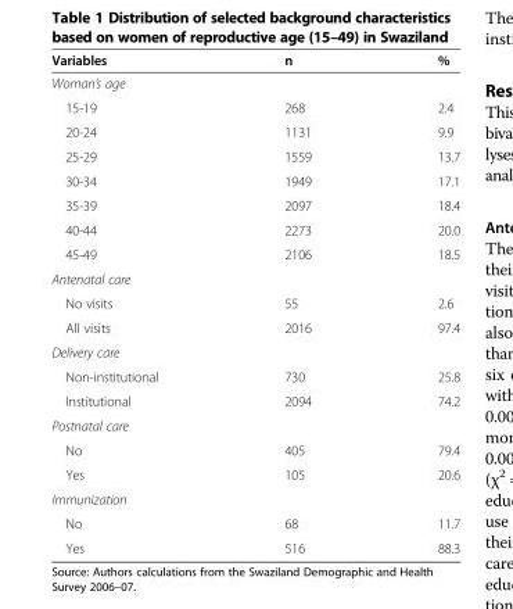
<table><thead><tr><td>Variables</td><td>n</td><td>%</td></tr></thead><tbody><tr><td colspan="3">Woman’s age</td></tr><tr><td>15-19</td><td>268</td><td>2.4</td></tr><tr><td>20-24</td><td>1131</td><td>9.9</td></tr><tr><td>25-29</td><td>1559</td><td>13.7</td></tr><tr><td>30-34</td><td>1949</td><td>17.1</td></tr><tr><td>35-39</td><td>2097</td><td>18.4</td></tr><tr><td>40-44</td><td>2273</td><td>20.0</td></tr><tr><td>45-49</td><td>2106</td><td>18.5</td></tr><tr><td colspan="3">Antenatal care</td></tr><tr><td>No visits</td><td>55</td><td>2.6</td></tr><tr><td>All visits</td><td>2016</td><td>97.4</td></tr><tr><td colspan="3">Delivery care</td></tr><tr><td>Non-institutional</td><td>730</td><td>25.8</td></tr><tr><td>Institutional</td><td>2094</td><td>74.2</td></tr><tr><td colspan="3">Postnatal care</td></tr><tr><td>No</td><td>405</td><td>79.4</td></tr><tr><td>Yes</td><td>105</td><td>20.6</td></tr><tr><td colspan="3">Immunization</td></tr><tr><td>No</td><td>68</td><td>11.7</td></tr><tr><td>Yes</td><td>516</td><td>88.3</td></tr></tbody></table>